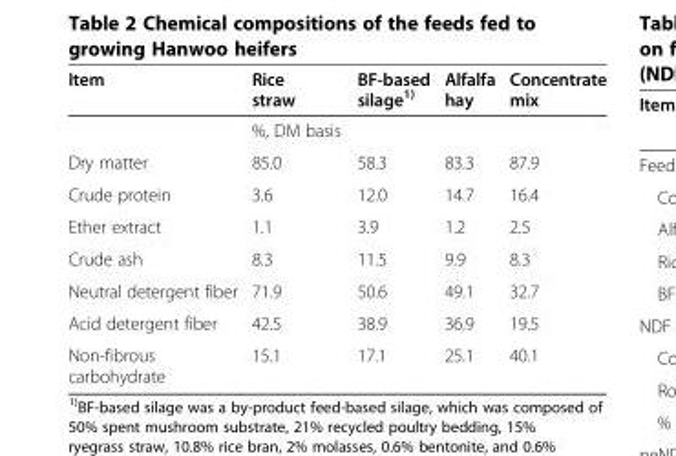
<table><thead><tr><td>Item</td><td>Rice straw</td><td>BF-based silage<sup>1)</sup></td><td>Alfalfa hay</td><td>Concentrate mix</td></tr></thead><tbody><tr><td></td><td>%, DM basis</td><td></td><td></td><td></td></tr><tr><td>Dry matter</td><td>85.0</td><td>58.3</td><td>83.3</td><td>87.9</td></tr><tr><td>Crude protein</td><td>3.6</td><td>12.0</td><td>14.7</td><td>16.4</td></tr><tr><td>Ether extract</td><td>1.1</td><td>3.9</td><td>1.2</td><td>2.5</td></tr><tr><td>Crude ash</td><td>8.3</td><td>11.5</td><td>9.9</td><td>8.3</td></tr><tr><td>Neutral detergent fiber</td><td>71.9</td><td>50.6</td><td>49.1</td><td>32.7</td></tr><tr><td>Acid detergent fiber</td><td>42.5</td><td>38.9</td><td>36.9</td><td>19.5</td></tr><tr><td>Non-fibrous carbohydrate</td><td>15.1</td><td>17.1</td><td>25.1</td><td>40.1</td></tr></tbody></table>